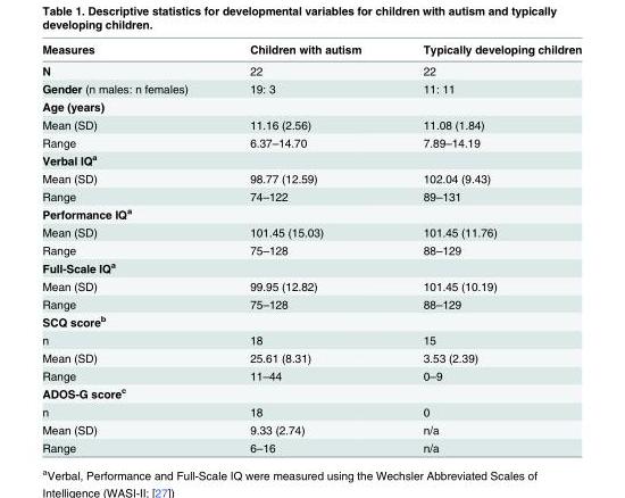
<table><thead><tr><td>Measures</td><td>Children with autism</td><td>Typically developing children</td></tr></thead><tbody><tr><td>N</td><td>22</td><td>22</td></tr><tr><td>Gender (n males: n females)</td><td>19: 3</td><td>11: 11</td></tr><tr><td colspan="3">Age (years)</td></tr><tr><td>Mean (SD)</td><td>11.16 (2.56)</td><td>11.08 (1.84)</td></tr><tr><td>Range</td><td>6.37–14.70</td><td>7.89–14.19</td></tr><tr><td colspan="3">Verbal IQ<sup>a</sup></td></tr><tr><td>Mean (SD)</td><td>98.77 (12.59)</td><td>102.04 (9.43)</td></tr><tr><td>Range</td><td>74–122</td><td>89–131</td></tr><tr><td colspan="3">Performance IQ<sup>a</sup></td></tr><tr><td>Mean (SD)</td><td>101.45 (15.03)</td><td>101.45 (11.76)</td></tr><tr><td>Range</td><td>75–128</td><td>88–129</td></tr><tr><td colspan="3">Full-Scale IQ<sup>a</sup></td></tr><tr><td>Mean (SD)</td><td>99.95 (12.82)</td><td>101.45 (10.19)</td></tr><tr><td>Range</td><td>75–128</td><td>88–129</td></tr><tr><td colspan="3">SCQ score<sup>b</sup></td></tr><tr><td>n</td><td>18</td><td>15</td></tr><tr><td>Mean (SD)</td><td>25.61 (8.31)</td><td>3.53 (2.39)</td></tr><tr><td>Range</td><td>11–44</td><td>0–9</td></tr><tr><td colspan="3">ADOS-G score<sup>c</sup></td></tr><tr><td>n</td><td>18</td><td>0</td></tr><tr><td>Mean (SD)</td><td>9.33 (2.74)</td><td>n/a</td></tr><tr><td>Range</td><td>6–16</td><td>n/a</td></tr></tbody></table>